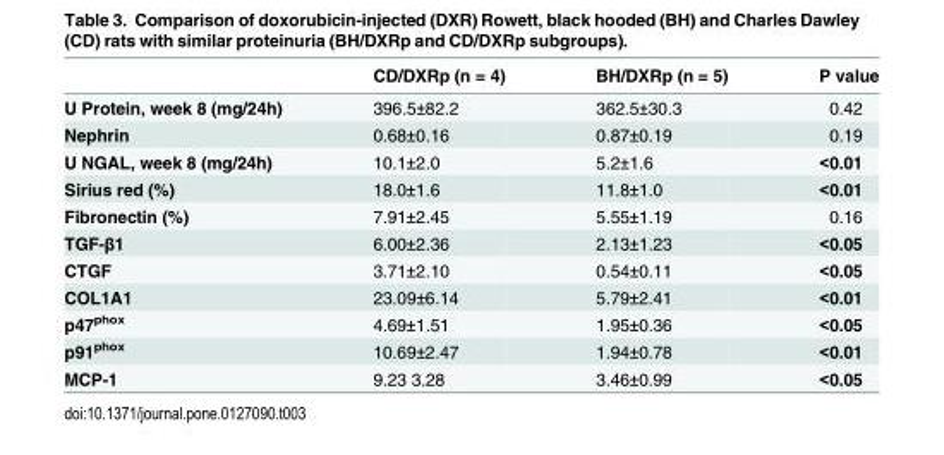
<table><thead><tr><td></td><td>CD/DXRp (n = 4)</td><td>BH/DXRp (n = 5)</td><td>P value</td></tr></thead><tbody><tr><td>U Protein, week 8 (mg/24h)</td><td>396.5±82.2</td><td>362.5±30.3</td><td>0.42</td></tr><tr><td>Nephrin</td><td>0.68±0.16</td><td>0.87±0.19</td><td>0.19</td></tr><tr><td>U NGAL, week 8 (mg/24h)</td><td>10.1±2.0</td><td>5.2±1.6</td><td>&lt;0.01</td></tr><tr><td>Sirius red (%)</td><td>18.0±1.6</td><td>11.8±1.0</td><td>&lt;0.01</td></tr><tr><td>Fibronectin (%)</td><td>7.91±2.45</td><td>5.55±1.19</td><td>0.16</td></tr><tr><td>TGF-β1</td><td>6.00±2.36</td><td>2.13±1.23</td><td>&lt;0.05</td></tr><tr><td>CTGF</td><td>3.71±2.10</td><td>0.54±0.11</td><td>&lt;0.05</td></tr><tr><td>COL1A1</td><td>23.09±6.14</td><td>5.79±2.41</td><td>&lt;0.01</td></tr><tr><td>p47<sup>phox</sup></td><td>4.69±1.51</td><td>1.95±0.36</td><td>&lt;0.05</td></tr><tr><td>p91<sup>phox</sup></td><td>10.69±2.47</td><td>1.94±0.78</td><td>&lt;0.01</td></tr><tr><td>MCP-1</td><td>9.23 3.28</td><td>3.46±0.99</td><td>&lt;0.05</td></tr></tbody></table>